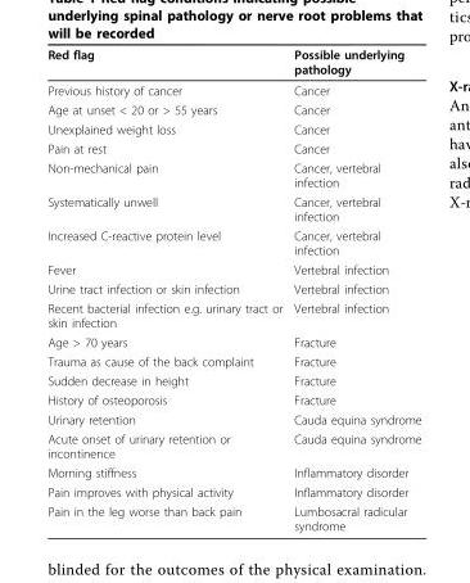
<table><thead><tr><td>Red flag</td><td>Possible underlying pathology</td></tr></thead><tbody><tr><td>Previous history of cancer</td><td>Cancer</td></tr><tr><td>Age at unset &lt; 20 or &gt; 55 years</td><td>Cancer</td></tr><tr><td>Unexplained weight loss</td><td>Cancer</td></tr><tr><td>Pain at rest</td><td>Cancer</td></tr><tr><td>Non-mechanical pain</td><td>Cancer, vertebral infection</td></tr><tr><td>Systematically unwell</td><td>Cancer, vertebral infection</td></tr><tr><td>Increased C-reactive protein level</td><td>Cancer, vertebral infection</td></tr><tr><td>Fever</td><td>Vertebral infection</td></tr><tr><td>Urine tract infection or skin infection</td><td>Vertebral infection</td></tr><tr><td>Recent bacterial infection e.g. urinary tract or skin infection</td><td>Vertebral infection</td></tr><tr><td>Age &gt; 70 years</td><td>Fracture</td></tr><tr><td>Trauma as cause of the back complaint</td><td>Fracture</td></tr><tr><td>Sudden decrease in height</td><td>Fracture</td></tr><tr><td>History of osteoporosis</td><td>Fracture</td></tr><tr><td>Urinary retention</td><td>Cauda equina syndrome</td></tr><tr><td>Acute onset of urinary retention or incontinence</td><td>Cauda equina syndrome</td></tr><tr><td>Morning stiffness</td><td>Inflammatory disorder</td></tr><tr><td>Pain improves with physical activity</td><td>Inflammatory disorder</td></tr><tr><td>Pain in the leg worse than back pain</td><td>Lumbosacral radicular syndrome</td></tr></tbody></table>